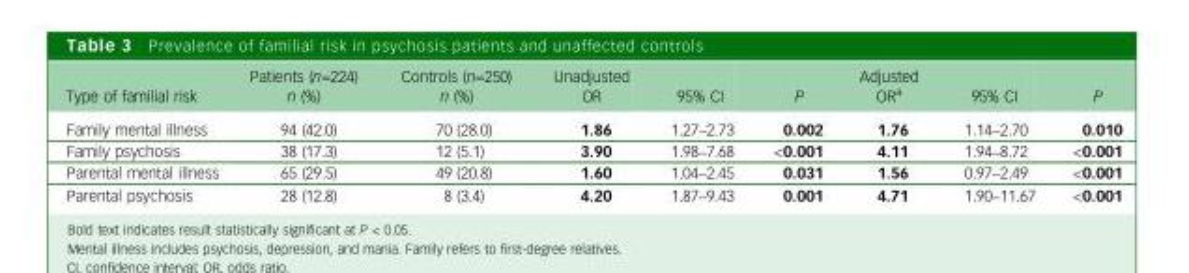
<table><thead><tr><td>Type of familial risk</td><td>Patients (n=224) n (%)</td><td>Controls (n=250) n (%)</td><td>Unadjusted OR</td><td>95% CI</td><td>P</td><td>Adjusted OR<sup>a</sup></td><td>95% CI</td><td>P</td></tr></thead><tbody><tr><td>Family mental illness</td><td>94 (42.0)</td><td>70 (28.0)</td><td>1.86</td><td>1.27–2.73</td><td>0.002</td><td>1.76</td><td>1.14–2.70</td><td>0.010</td></tr><tr><td>Family psychosis</td><td>38 (17.3)</td><td>12 (5.1)</td><td>3.90</td><td>1.98–7.68</td><td>&lt;0.001</td><td>4.11</td><td>1.94–8.72</td><td>&lt;0.001</td></tr><tr><td>Parental mental illness</td><td>65 (29.5)</td><td>49 (20.8)</td><td>1.60</td><td>1.04–2.45</td><td>0.031</td><td>1.56</td><td>0.97–2.49</td><td>&lt;0.001</td></tr><tr><td>Parental psychosis</td><td>28 (12.8)</td><td>8 (3.4)</td><td>4.20</td><td>1.87–9.43</td><td>0.001</td><td>4.71</td><td>1.90–11.67</td><td>&lt;0.001</td></tr></tbody></table>